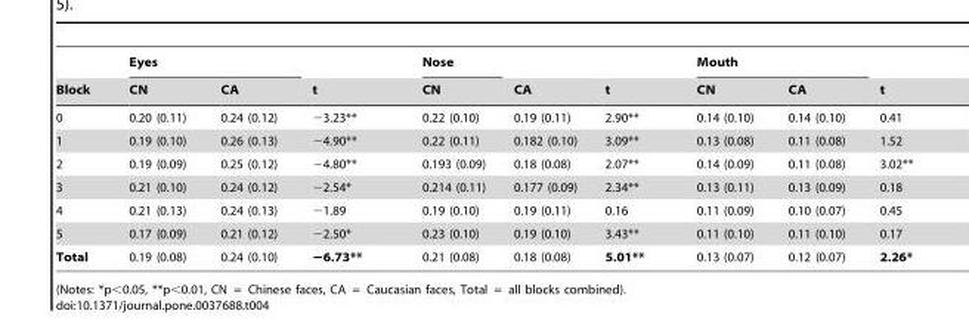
<table><thead><tr><td rowspan="2">Block</td><td colspan="2">Eyes</td><td rowspan="2">t</td><td rowspan="2">Nose CN</td><td rowspan="2">CA</td><td rowspan="2">t</td><td colspan="2">Mouth</td><td rowspan="2">t</td></tr><tr><td>CN</td><td>CA</td><td>CN</td><td>CA</td></tr></thead><tbody><tr><td>0</td><td>0.20 (0.11)</td><td>0.24 (0.12)</td><td>−3.23**</td><td>0.22 (0.10)</td><td>0.19 (0.11)</td><td>2.90**</td><td>0.14 (0.10)</td><td>0.14 (0.10)</td><td>0.41</td></tr><tr><td>1</td><td>0.19 (0.10)</td><td>0.26 (0.13)</td><td>−4.90**</td><td>0.22 (0.11)</td><td>0.182 (0.10)</td><td>3.09**</td><td>0.13 (0.08)</td><td>0.11 (0.08)</td><td>1.52</td></tr><tr><td>2</td><td>0.19 (0.09)</td><td>0.25 (0.12)</td><td>−4.80**</td><td>0.193 (0.09)</td><td>0.18 (0.08)</td><td>2.07**</td><td>0.14 (0.09)</td><td>0.11 (0.08)</td><td>3.02**</td></tr><tr><td>3</td><td>0.21 (0.10)</td><td>0.24 (0.12)</td><td>−2.54*</td><td>0.214 (0.11)</td><td>0.177 (0.09)</td><td>2.34**</td><td>0.13 (0.11)</td><td>0.13 (0.09)</td><td>0.18</td></tr><tr><td>4</td><td>0.21 (0.13)</td><td>0.24 (0.13)</td><td>−1.89</td><td>0.19 (0.10)</td><td>0.19 (0.11)</td><td>0.16</td><td>0.11 (0.09)</td><td>0.10 (0.07)</td><td>0.45</td></tr><tr><td>5</td><td>0.17 (0.09)</td><td>0.21 (0.12)</td><td>−2.50*</td><td>0.23 (0.10)</td><td>0.19 (0.10)</td><td>3.43**</td><td>0.11 (0.10)</td><td>0.11 (0.10)</td><td>0.17</td></tr><tr><td>Total</td><td>0.19 (0.08)</td><td>0.24 (0.10)</td><td>−6.73**</td><td>0.21 (0.08)</td><td>0.18 (0.08)</td><td>5.01**</td><td>0.13 (0.07)</td><td>0.12 (0.07)</td><td>2.26*</td></tr></tbody></table>